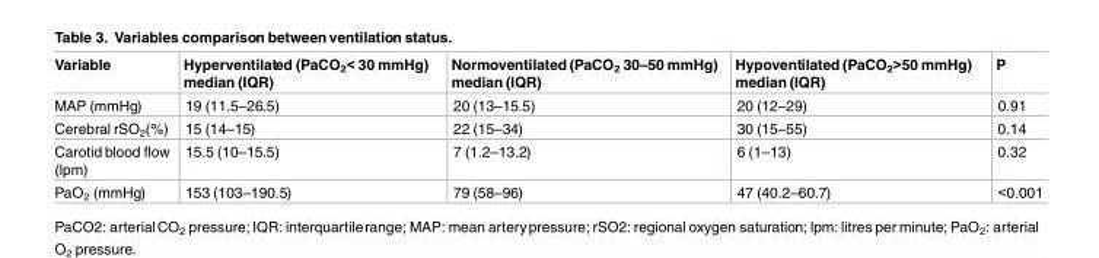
<table><thead><tr><td>Variable</td><td>Hyperventilated (PaCO<sub>2</sub>&lt; 30 mmHg) median (IQR)</td><td>Normoventilated (PaCO<sub>2</sub> 30–50 mmHg) median (IQR)</td><td>Hypoventilated (PaCO<sub>2</sub>&gt;50 mmHg) median (IQR)</td><td>P</td></tr></thead><tbody><tr><td>MAP (mmHg)</td><td>19 (11.5–26.5)</td><td>20 (13–15.5)</td><td>20 (12–29)</td><td>0.91</td></tr><tr><td>Cerebral rSO<sub>2</sub>(%)</td><td>15 (14–15)</td><td>22 (15–34)</td><td>30 (15–55)</td><td>0.14</td></tr><tr><td>Carotid blood flow (lpm)</td><td>15.5 (10–15.5)</td><td>7 (1.2–13.2)</td><td>6 (1–13)</td><td>0.32</td></tr><tr><td>PaO<sub>2</sub> (mmHg)</td><td>153 (103–190.5)</td><td>79 (58–96)</td><td>47 (40.2–60.7)</td><td>&lt;0.001</td></tr></tbody></table>